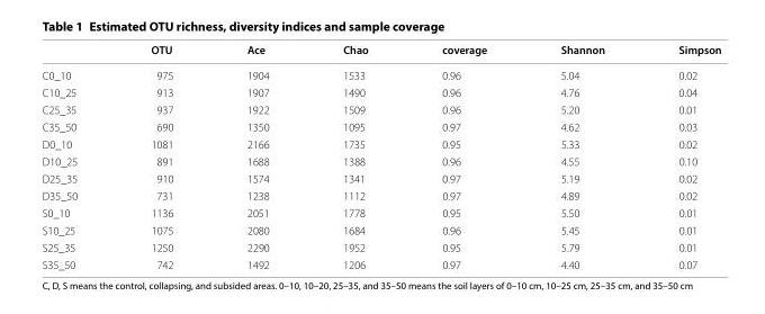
<table><thead><tr><td></td><td>OTU</td><td>Ace</td><td>Chao</td><td>coverage</td><td>Shannon</td><td>Simpson</td></tr></thead><tbody><tr><td>C0_10</td><td>975</td><td>1904</td><td>1533</td><td>0.96</td><td>5.04</td><td>0.02</td></tr><tr><td>C10_25</td><td>913</td><td>1907</td><td>1490</td><td>0.96</td><td>4.76</td><td>0.04</td></tr><tr><td>C25_35</td><td>937</td><td>1922</td><td>1509</td><td>0.96</td><td>5.20</td><td>0.01</td></tr><tr><td>C35_50</td><td>690</td><td>1350</td><td>1095</td><td>0.97</td><td>4.62</td><td>0.03</td></tr><tr><td>D0_10</td><td>1081</td><td>2166</td><td>1735</td><td>0.95</td><td>5.33</td><td>0.02</td></tr><tr><td>D10_25</td><td>891</td><td>1688</td><td>1388</td><td>0.96</td><td>4.55</td><td>0.10</td></tr><tr><td>D25_35</td><td>910</td><td>1574</td><td>1341</td><td>0.97</td><td>5.19</td><td>0.02</td></tr><tr><td>D35_50</td><td>731</td><td>1238</td><td>1112</td><td>0.97</td><td>4.89</td><td>0.02</td></tr><tr><td>S0_10</td><td>1136</td><td>2051</td><td>1778</td><td>0.95</td><td>5.50</td><td>0.01</td></tr><tr><td>S10_25</td><td>1075</td><td>2080</td><td>1684</td><td>0.96</td><td>5.45</td><td>0.01</td></tr><tr><td>S25_35</td><td>1250</td><td>2290</td><td>1952</td><td>0.95</td><td>5.79</td><td>0.01</td></tr><tr><td>S35_50</td><td>742</td><td>1492</td><td>1206</td><td>0.97</td><td>4.40</td><td>0.07</td></tr></tbody></table>